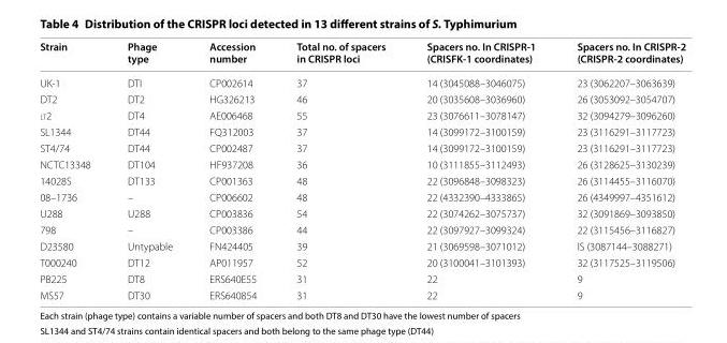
<table><thead><tr><td>Strain</td><td>Phage type</td><td>Accession number</td><td>Total no. of spacers in CRISPR loci</td><td>Spacers no. In CRISPR-1 (CRISFK-1 coordinates)</td><td>Spacers no. In CRISPR-2 (CRISPR-2 coordinates)</td></tr></thead><tbody><tr><td>UK-1</td><td>DTI</td><td>CP002614</td><td>37</td><td>14 (3045088–3046075)</td><td>23 (3062207–3063639)</td></tr><tr><td>DT2</td><td>DT2</td><td>HG326213</td><td>46</td><td>20 (3035608–3036960)</td><td>26 (3053092–3054707)</td></tr><tr><td>lt2</td><td>DT4</td><td>AE006468</td><td>55</td><td>23 (3076611–3078147)</td><td>32 (3094279–3096260)</td></tr><tr><td>SL1344</td><td>DT44</td><td>FQ312003</td><td>37</td><td>14 (3099172–3100159)</td><td>23 (3116291–3117723)</td></tr><tr><td>ST4/74</td><td>DT44</td><td>CP002487</td><td>37</td><td>14 (3099172–3100159)</td><td>23 (3116291–3117723)</td></tr><tr><td>NCTC13348</td><td>DT104</td><td>HF937208</td><td>36</td><td>10 (3111855–3112493)</td><td>26 (3128625–3130239)</td></tr><tr><td>14028S</td><td>DT133</td><td>CP001363</td><td>48</td><td>22 (3096848–3098323)</td><td>26 (3114455–3116070)</td></tr><tr><td>08–1736</td><td>–</td><td>CP006602</td><td>48</td><td>22 (4332390–4333865)</td><td>26 (4349997–4351612)</td></tr><tr><td>U288</td><td>U288</td><td>CP003836</td><td>54</td><td>22 (3074262–3075737)</td><td>32 (3091869–3093850)</td></tr><tr><td>798</td><td>–</td><td>CP003386</td><td>44</td><td>22 (3097927–3099324)</td><td>22 (3115456–3116827)</td></tr><tr><td>D23580</td><td>Untypable</td><td>FN424405</td><td>39</td><td>21 (3069598–3071012)</td><td>IS (3087144–3088271)</td></tr><tr><td>T000240</td><td>DT12</td><td>AP011957</td><td>52</td><td>20 (3100041–3101393)</td><td>32 (3117525–3119506)</td></tr><tr><td>PB225</td><td>DT8</td><td>ERS640E55</td><td>31</td><td>22</td><td>9</td></tr><tr><td>MS57</td><td>DT30</td><td>ERS640854</td><td>31</td><td>22</td><td>9</td></tr></tbody></table>